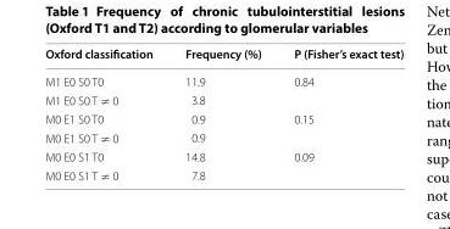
<table><thead><tr><td>Oxford classification</td><td>Frequency (%)</td><td>P (Fisher’s exact test)</td></tr></thead><tbody><tr><td>M1 E0 S0 T0</td><td>11.9</td><td rowspan="2">0.84</td></tr><tr><td>M1 E0 S0 T ≠ 0</td><td>3.8</td></tr><tr><td>M0 E1 S0 T0</td><td>0.9</td><td rowspan="2">0.15</td></tr><tr><td>M0 E1 S0 T ≠ 0</td><td>0.9</td></tr><tr><td>M0 E0 S1 T0</td><td>14.8</td><td rowspan="2">0.09</td></tr><tr><td>M0 E0 S1 T ≠ 0</td><td>7.8</td></tr></tbody></table>